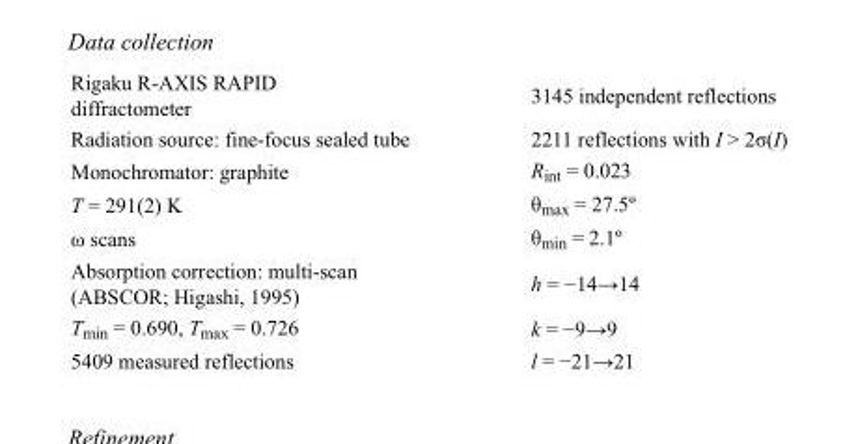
<table><tbody><tr><td>Rigaku R-AXIS RAPID diffractometer</td><td>3145 independent reflections</td></tr><tr><td>Radiation source: fine-focus sealed tube</td><td>2211 reflections with I &gt; 2σ(I)</td></tr><tr><td>Monochromator: graphite</td><td>R<sub>int</sub> = 0.023</td></tr><tr><td>T = 291(2) K</td><td>θ<sub>max</sub> = 27.5º</td></tr><tr><td>ω scans</td><td>θ<sub>min</sub> = 2.1º</td></tr><tr><td>Absorption correction: multi-scan (ABSCOR; Higashi, 1995)</td><td>h = −14→14</td></tr><tr><td>T<sub>min</sub> = 0.690, T<sub>max</sub> = 0.726</td><td>k = −9→9</td></tr><tr><td>5409 measured reflections</td><td>l = −21→21</td></tr></tbody></table>